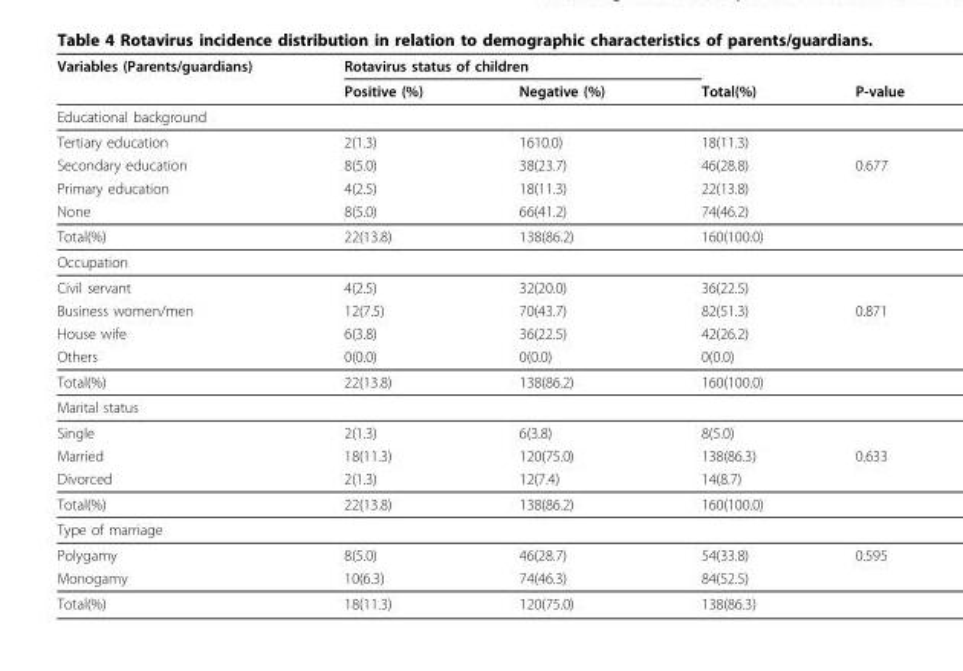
<table><thead><tr><td rowspan="2">Variables (Parents/guardians)</td><td colspan="2">Rotavirus status of children</td><td rowspan="2">Total(%)</td><td rowspan="2">P-value</td></tr><tr><td>Positive (%)</td><td>Negative (%)</td></tr></thead><tbody><tr><td colspan="5">Educational background</td></tr><tr><td>Tertiary education</td><td>2(1.3)</td><td>1610.0)</td><td>18(11.3)</td><td></td></tr><tr><td>Secondary education</td><td>8(5.0)</td><td>38(23.7)</td><td>46(28.8)</td><td>0.677</td></tr><tr><td>Primary education</td><td>4(2.5)</td><td>18(11.3)</td><td>22(13.8)</td><td></td></tr><tr><td>None</td><td>8(5.0)</td><td>66(41.2)</td><td>74(46.2)</td><td></td></tr><tr><td>Total(%)</td><td>22(13.8)</td><td>138(86.2)</td><td>160(100.0)</td><td></td></tr><tr><td colspan="5">Occupation</td></tr><tr><td>Civil servant</td><td>4(2.5)</td><td>32(20.0)</td><td>36(22.5)</td><td></td></tr><tr><td>Business women/men</td><td>12(7.5)</td><td>70(43.7)</td><td>82(51.3)</td><td>0.871</td></tr><tr><td>House wife</td><td>6(3.8)</td><td>36(22.5)</td><td>42(26.2)</td><td></td></tr><tr><td>Others</td><td>0(0.0)</td><td>0(0.0)</td><td>0(0.0)</td><td></td></tr><tr><td>Total(%)</td><td>22(13.8)</td><td>138(86.2)</td><td>160(100.0)</td><td></td></tr><tr><td colspan="5">Marital status</td></tr><tr><td>Single</td><td>2(1.3)</td><td>6(3.8)</td><td>8(5.0)</td><td></td></tr><tr><td>Married</td><td>18(11.3)</td><td>120(75.0)</td><td>138(86.3)</td><td>0.633</td></tr><tr><td>Divorced</td><td>2(1.3)</td><td>12(7.4)</td><td>14(8.7)</td><td></td></tr><tr><td>Total(%)</td><td>22(13.8)</td><td>138(86.2)</td><td>160(100.0)</td><td></td></tr><tr><td colspan="5">Type of marriage</td></tr><tr><td>Polygamy</td><td>8(5.0)</td><td>46(28.7)</td><td>54(33.8)</td><td>0.595</td></tr><tr><td>Monogamy</td><td>10(6.3)</td><td>74(46.3)</td><td>84(52.5)</td><td></td></tr><tr><td>Total(%)</td><td>18(11.3)</td><td>120(75.0)</td><td>138(86.3)</td><td></td></tr></tbody></table>